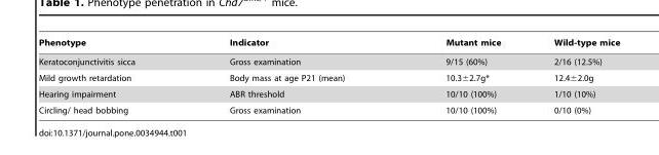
<table><thead><tr><td>Phenotype</td><td>Indicator</td><td>Mutant mice</td><td>Wild-type mice</td></tr></thead><tbody><tr><td>Keratoconjunctivitis sicca</td><td>Gross examination</td><td>9/15 (60%)</td><td>2/16 (12.5%)</td></tr><tr><td>Mild growth retardation</td><td>Body mass at age P21 (mean)</td><td>10.3±2.7g*</td><td>12.4±2.0g</td></tr><tr><td>Hearing impairment</td><td>ABR threshold</td><td>10/10 (100%)</td><td>1/10 (10%)</td></tr><tr><td>Circling/ head bobbing</td><td>Gross examination</td><td>10/10 (100%)</td><td>0/10 (0%)</td></tr></tbody></table>